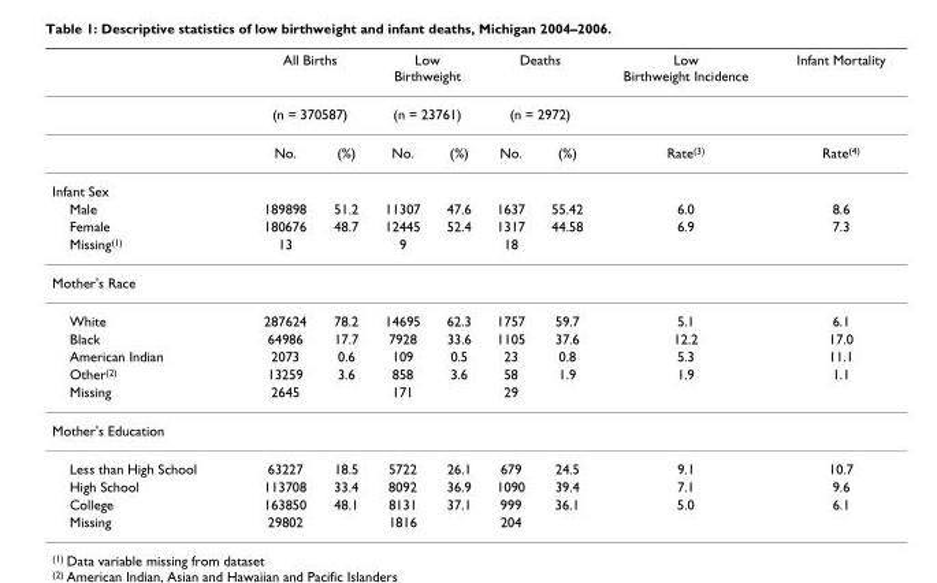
<table><thead><tr><td rowspan="3"></td><td rowspan="2" colspan="2">All Births (n = 370587)</td><td rowspan="2" colspan="2">Low Birthweight (n = 23761)</td><td rowspan="2" colspan="2">Deaths (n = 2972)</td><td rowspan="3">Low Birthweight Incidence Rate(3)</td><td rowspan="3">Infant Mortality Rate(4)</td></tr><tr></tr><tr><td>No.</td><td>(%)</td><td>No.</td><td>(%)</td><td>No.</td><td>(%)</td></tr></thead><tbody><tr><td colspan="9">Infant Sex</td></tr><tr><td>Male</td><td>189898</td><td>51.2</td><td>11307</td><td>47.6</td><td>1637</td><td>55.42</td><td>6.0</td><td>8.6</td></tr><tr><td>Female</td><td>180676</td><td>48.7</td><td>12445</td><td>52.4</td><td>1317</td><td>44.58</td><td>6.9</td><td>7.3</td></tr><tr><td>Missing<sup>(1)</sup></td><td>13</td><td></td><td>9</td><td></td><td>18</td><td></td><td></td><td></td></tr><tr><td colspan="9">Mother&#x27;s Race</td></tr><tr><td>White</td><td>287624</td><td>78.2</td><td>14695</td><td>62.3</td><td>1757</td><td>59.7</td><td>5.1</td><td>6.1</td></tr><tr><td>Black</td><td>64986</td><td>17.7</td><td>7928</td><td>33.6</td><td>1105</td><td>37.6</td><td>12.2</td><td>17.0</td></tr><tr><td>American Indian</td><td>2073</td><td>0.6</td><td>109</td><td>0.5</td><td>23</td><td>0.8</td><td>5.3</td><td>11.1</td></tr><tr><td>Other<sup>(2)</sup></td><td>13259</td><td>3.6</td><td>858</td><td>3.6</td><td>58</td><td>1.9</td><td>1.9</td><td>1.1</td></tr><tr><td>Missing</td><td>2645</td><td></td><td>171</td><td></td><td>29</td><td></td><td></td><td></td></tr><tr><td colspan="9">Mother&#x27;s Education</td></tr><tr><td>Less than High School</td><td>63227</td><td>18.5</td><td>5722</td><td>26.1</td><td>679</td><td>24.5</td><td>9.1</td><td>10.7</td></tr><tr><td>High School</td><td>113708</td><td>33.4</td><td>8092</td><td>36.9</td><td>1090</td><td>39.4</td><td>7.1</td><td>9.6</td></tr><tr><td>College</td><td>163850</td><td>48.1</td><td>8131</td><td>37.1</td><td>999</td><td>36.1</td><td>5.0</td><td>6.1</td></tr><tr><td>Missing</td><td>29802</td><td></td><td>1816</td><td></td><td>204</td><td></td><td></td><td></td></tr></tbody></table>